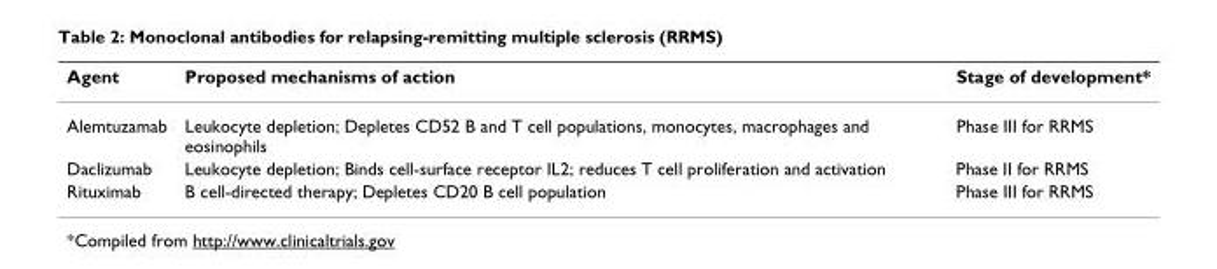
<table><thead><tr><td>Agent</td><td>Proposed mechanisms of action</td><td>Stage of development*</td></tr></thead><tbody><tr><td>Alemtuzamab</td><td>Leukocyte depletion; Depletes CD52 B and T cell populations, monocytes, macrophages and eosinophils</td><td>Phase III for RRMS</td></tr><tr><td>Daclizumab</td><td>Leukocyte depletion; Binds cell-surface receptor IL2; reduces T cell proliferation and activation</td><td>Phase II for RRMS</td></tr><tr><td>Rituximab</td><td>B cell-directed therapy; Depletes CD20 B cell population</td><td>Phase III for RRMS</td></tr></tbody></table>